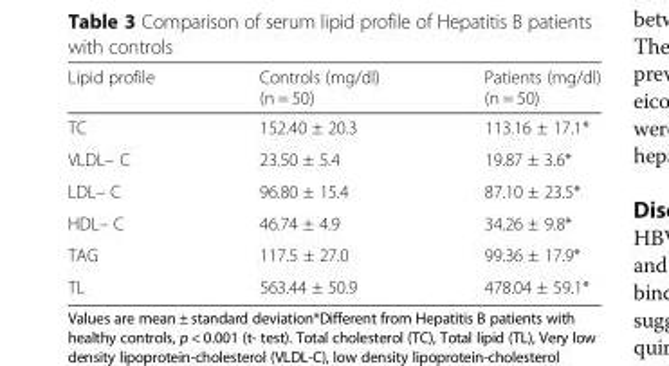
<table><thead><tr><td>Lipid profile</td><td>Controls (mg/dl) (n = 50)</td><td>Patients (mg/dl) (n = 50)</td></tr></thead><tbody><tr><td>TC</td><td>152.40 ± 20.3</td><td>113.16 ± 17.1*</td></tr><tr><td>VLDL– C</td><td>23.50 ± 5.4</td><td>19.87 ± 3.6*</td></tr><tr><td>LDL– C</td><td>96.80 ± 15.4</td><td>87.10 ± 23.5*</td></tr><tr><td>HDL– C</td><td>46.74 ± 4.9</td><td>34.26 ± 9.8*</td></tr><tr><td>TAG</td><td>117.5 ± 27.0</td><td>99.36 ± 17.9*</td></tr><tr><td>TL</td><td>563.44 ± 50.9</td><td>478.04 ± 59.1*</td></tr></tbody></table>